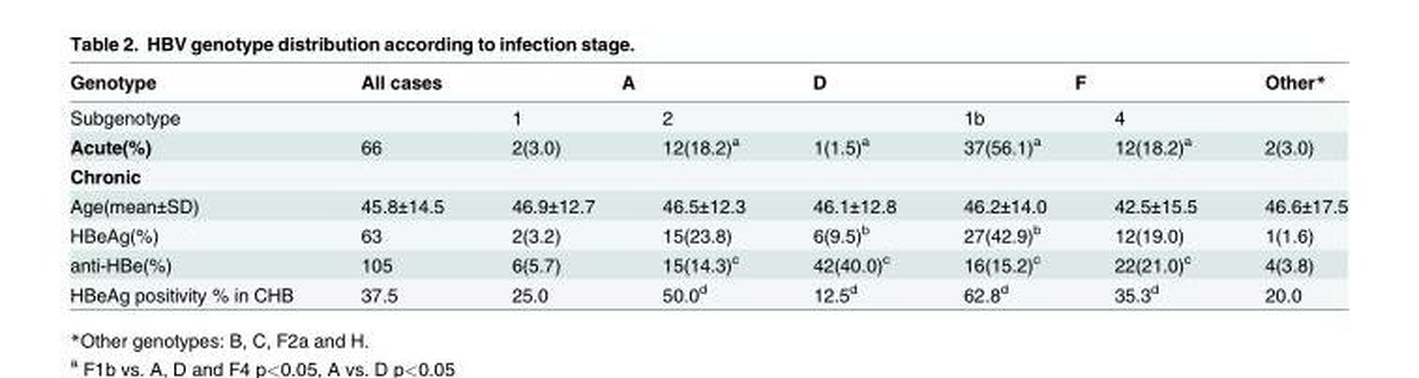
<table><thead><tr><td rowspan="2">Genotype Subgenotype</td><td rowspan="2">All cases</td><td colspan="2">A</td><td rowspan="2">D</td><td colspan="2">F</td><td rowspan="2">Other*</td></tr><tr><td>1</td><td>2</td><td>1b</td><td>4</td></tr></thead><tbody><tr><td>Acute(%)</td><td>66</td><td>2(3.0)</td><td>12(18.2)<sup>a</sup></td><td>1(1.5)<sup>a</sup></td><td>37(56.1)<sup>a</sup></td><td>12(18.2)<sup>a</sup></td><td>2(3.0)</td></tr><tr><td colspan="8">Chronic</td></tr><tr><td>Age(mean±SD)</td><td>45.8±14.5</td><td>46.9±12.7</td><td>46.5±12.3</td><td>46.1±12.8</td><td>46.2±14.0</td><td>42.5±15.5</td><td>46.6±17.5</td></tr><tr><td>HBeAg(%)</td><td>63</td><td>2(3.2)</td><td>15(23.8)</td><td>6(9.5)<sup>b</sup></td><td>27(42.9)<sup>b</sup></td><td>12(19.0)</td><td>1(1.6)</td></tr><tr><td>anti-HBe(%)</td><td>105</td><td>6(5.7)</td><td>15(14.3)<sup>c</sup></td><td>42(40.0)<sup>c</sup></td><td>16(15.2)<sup>c</sup></td><td>22(21.0)<sup>c</sup></td><td>4(3.8)</td></tr><tr><td>HBeAg positivity % in CHB</td><td>37.5</td><td>25.0</td><td>50.0<sup>d</sup></td><td>12.5<sup>d</sup></td><td>62.8<sup>d</sup></td><td>35.3<sup>d</sup></td><td>20.0</td></tr></tbody></table>